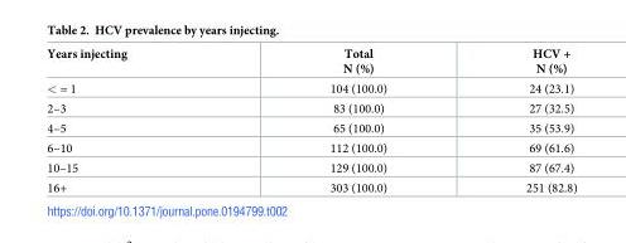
<table><thead><tr><td>Years injecting</td><td>Total N (%)</td><td>HCV + N (%)</td></tr></thead><tbody><tr><td>&lt; = 1</td><td>104 (100.0)</td><td>24 (23.1)</td></tr><tr><td>2–3</td><td>83 (100.0)</td><td>27 (32.5)</td></tr><tr><td>4–5</td><td>65 (100.0)</td><td>35 (53.9)</td></tr><tr><td>6–10</td><td>112 (100.0)</td><td>69 (61.6)</td></tr><tr><td>10–15</td><td>129 (100.0)</td><td>87 (67.4)</td></tr><tr><td>16+</td><td>303 (100.0)</td><td>251 (82.8)</td></tr></tbody></table>